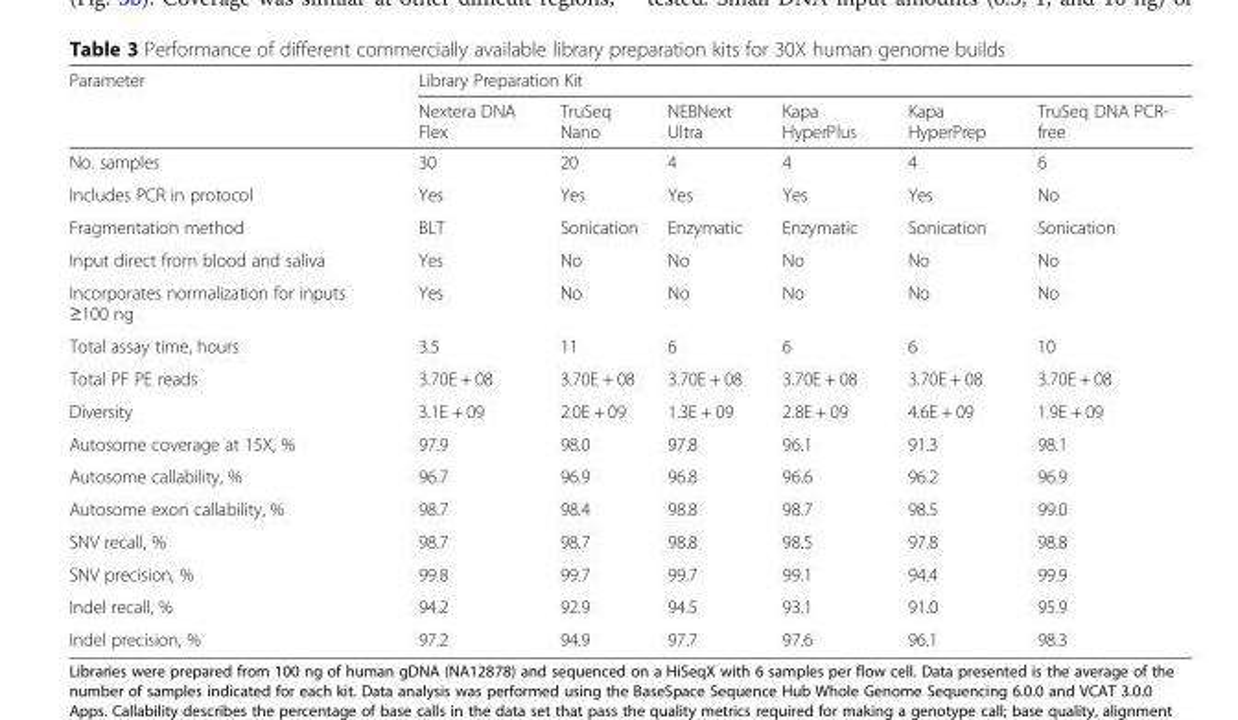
<table><thead><tr><td rowspan="2">Parameter</td><td colspan="6">Library Preparation Kit</td></tr><tr><td>Nextera DNA Flex</td><td>TruSeq Nano</td><td>NEBNext Ultra</td><td>Kapa HyperPlus</td><td>Kapa HyperPrep</td><td>TruSeq DNA PCR- free</td></tr></thead><tbody><tr><td>No. samples</td><td>30</td><td>20</td><td>4</td><td>4</td><td>4</td><td>6</td></tr><tr><td>Includes PCR in protocol</td><td>Yes</td><td>Yes</td><td>Yes</td><td>Yes</td><td>Yes</td><td>No</td></tr><tr><td>Fragmentation method</td><td>BLT</td><td>Sonication</td><td>Enzymatic</td><td>Enzymatic</td><td>Sonication</td><td>Sonication</td></tr><tr><td>Input direct from blood and saliva</td><td>Yes</td><td>No</td><td>No</td><td>No</td><td>No</td><td>No</td></tr><tr><td>Incorporates normalization for inputs ≥100 ng</td><td>Yes</td><td>No</td><td>No</td><td>No</td><td>No</td><td>No</td></tr><tr><td>Total assay time, hours</td><td>3.5</td><td>11</td><td>6</td><td>6</td><td>6</td><td>10</td></tr><tr><td>Total PF PE reads</td><td>3.70E + 08</td><td>3.70E + 08</td><td>3.70E + 08</td><td>3.70E + 08</td><td>3.70E + 08</td><td>3.70E + 08</td></tr><tr><td>Diversity</td><td>3.1E + 09</td><td>2.0E + 09</td><td>1.3E + 09</td><td>2.8E + 09</td><td>4.6E + 09</td><td>1.9E + 09</td></tr><tr><td>Autosome coverage at 15X, %</td><td>97.9</td><td>98.0</td><td>97.8</td><td>96.1</td><td>91.3</td><td>98.1</td></tr><tr><td>Autosome callability, %</td><td>96.7</td><td>96.9</td><td>96.8</td><td>96.6</td><td>96.2</td><td>96.9</td></tr><tr><td>Autosome exon callability, %</td><td>98.7</td><td>98.4</td><td>98.8</td><td>98.7</td><td>98.5</td><td>99.0</td></tr><tr><td>SNV recall, %</td><td>98.7</td><td>98.7</td><td>98.8</td><td>98.5</td><td>97.8</td><td>98.8</td></tr><tr><td>SNV precision, %</td><td>99.8</td><td>99.7</td><td>99.7</td><td>99.1</td><td>94.4</td><td>99.9</td></tr><tr><td>Indel recall, %</td><td>94.2</td><td>92.9</td><td>94.5</td><td>93.1</td><td>91.0</td><td>95.9</td></tr><tr><td>Indel precision, %</td><td>97.2</td><td>94.9</td><td>97.7</td><td>97.6</td><td>96.1</td><td>98.3</td></tr></tbody></table>